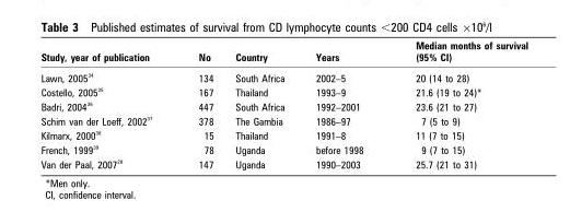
<table><thead><tr><td>Study, year of publication</td><td>No</td><td>Country</td><td>Years</td><td>Median months of survival (95% CI)</td></tr></thead><tbody><tr><td>Lawn, 2005 <sup>34</sup></td><td>134</td><td>South Africa</td><td>2002–5</td><td>20 (14 to 28)</td></tr><tr><td>Costello, 2005 <sup>35</sup></td><td>167</td><td>Thailand</td><td>1993–9</td><td>21.6 (19 to 24)*</td></tr><tr><td>Badri, 2004 <sup>36</sup></td><td>447</td><td>South Africa</td><td>1992–2001</td><td>23.6 (21 to 27)</td></tr><tr><td>Schim van der Loeff, 2002 <sup>37</sup></td><td>378</td><td>The Gambia</td><td>1986–97</td><td>7 (5 to 9)</td></tr><tr><td>Kilmarx, 2000 <sup>38</sup></td><td>15</td><td>Thailand</td><td>1991–8</td><td>11 (7 to 15)</td></tr><tr><td>French, 1999 <sup>39</sup></td><td>78</td><td>Uganda</td><td>before 1998</td><td>9 (7 to 15)</td></tr><tr><td>Van der Paal, 2007 <sup>28</sup></td><td>147</td><td>Uganda</td><td>1990–2003</td><td>25.7 (21 to 31)</td></tr></tbody></table>